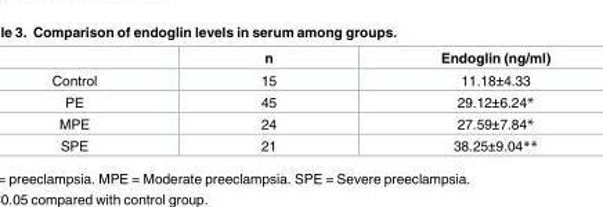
<table><thead><tr><td></td><td>n</td><td>Endoglin (ng/ml)</td></tr></thead><tbody><tr><td>Control</td><td>15</td><td>11.18±4.33</td></tr><tr><td>PE</td><td>45</td><td>29.12±6.24*</td></tr><tr><td>MPE</td><td>24</td><td>27.59±7.84*</td></tr><tr><td>SPE</td><td>21</td><td>38.25±9.04**</td></tr></tbody></table>